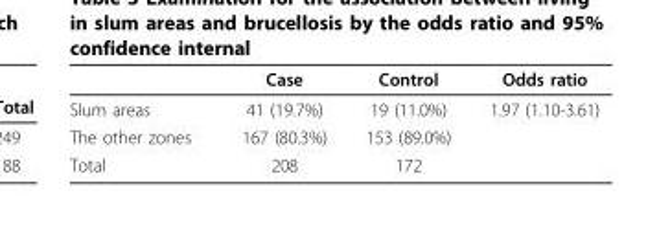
<table><thead><tr><td></td><td>Case</td><td>Control</td><td>Odds ratio</td></tr></thead><tbody><tr><td>Slum areas</td><td>41 (19.7%)</td><td>19 (11.0%)</td><td>1.97 (1.10-3.61)</td></tr><tr><td>The other zones</td><td>167 (80.3%)</td><td>153 (89.0%)</td><td></td></tr><tr><td>Total</td><td>208</td><td>172</td><td></td></tr></tbody></table>